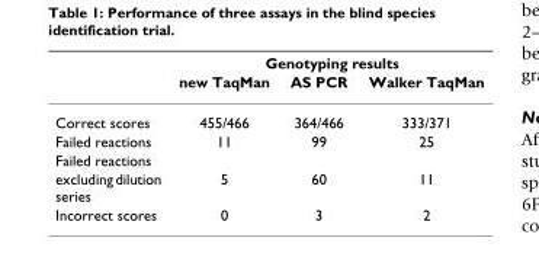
<table><thead><tr><td rowspan="2"></td><td colspan="3">Genotyping results</td></tr><tr><td>new TaqMan</td><td>AS PCR</td><td>Walker TaqMan</td></tr></thead><tbody><tr><td>Correct scores</td><td>455/466</td><td>364/466</td><td>333/371</td></tr><tr><td>Failed reactions</td><td>11</td><td>99</td><td>25</td></tr><tr><td colspan="4">Failed reactions</td></tr><tr><td>excluding dilution series</td><td>5</td><td>60</td><td>11</td></tr><tr><td>Incorrect scores</td><td>0</td><td>3</td><td>2</td></tr></tbody></table>